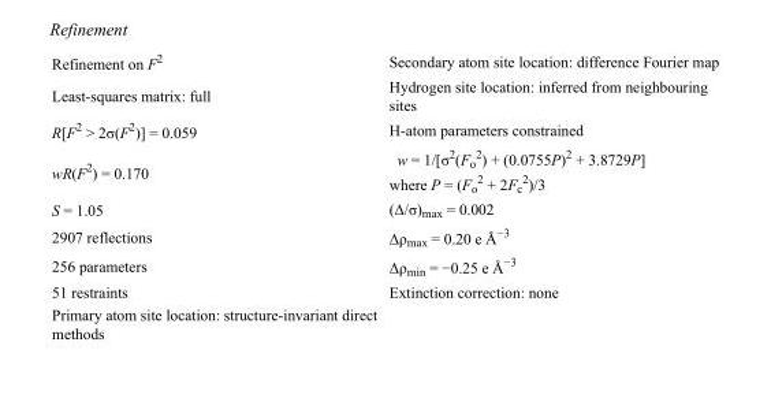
<table><tbody><tr><td>Refinement on F<sup>2</sup></td><td>Secondary atom site location: difference Fourier map</td></tr><tr><td>Least-squares matrix: full</td><td>Hydrogen site location: inferred from neighbouring sites</td></tr><tr><td>R[F<sup>2</sup> &gt; 2σ(F<sup>2</sup>)] = 0.059</td><td>H-atom parameters constrained</td></tr><tr><td>wR(F<sup>2</sup>) = 0.170</td><td>w = 1/[σ<sup>2</sup>(F<sub>o</sub> <sup>2</sup>) + (0.0755P)<sup>2</sup> + 3.8729P] where P = (F<sub>o</sub> <sup>2</sup> + 2F<sub>c</sub> <sup>2</sup>)/3</td></tr><tr><td>S = 1.05</td><td>(Δ/σ)<sub>max</sub> = 0.002</td></tr><tr><td>2907 reflections</td><td>Δρ<sub>max</sub> = 0.20 e Å<sup>−3</sup></td></tr><tr><td>256 parameters</td><td>Δρ<sub>min</sub> = −0.25 e Å<sup>−3</sup></td></tr><tr><td>51 restraints</td><td>Extinction correction: none</td></tr><tr><td>Primary atom site location: structure-invariant direct methods</td><td></td></tr></tbody></table>